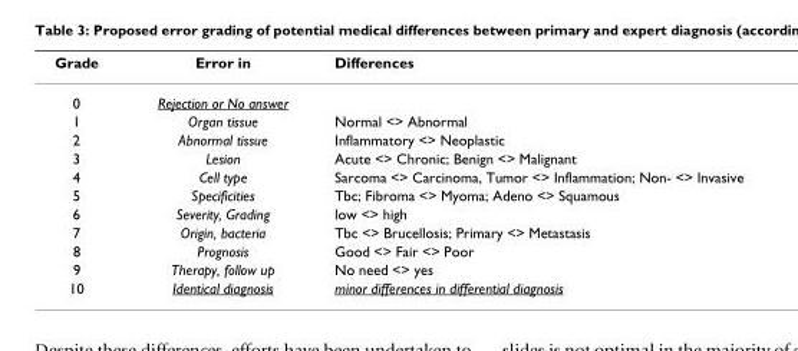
<table><thead><tr><td>Grade</td><td>Error in</td><td>Differences</td></tr></thead><tbody><tr><td>0</td><td>Rejection or No answer</td><td></td></tr><tr><td>1</td><td>Organ tissue</td><td>Normal &lt;&gt; Abnormal</td></tr><tr><td>2</td><td>Abnormal tissue</td><td>Inflammatory &lt;&gt; Neoplastic</td></tr><tr><td>3</td><td>Lesion</td><td>Acute &lt;&gt; Chronic; Benign &lt;&gt; Malignant</td></tr><tr><td>4</td><td>Cell type</td><td>Sarcoma &lt;&gt; Carcinoma, Tumor &lt;&gt; Inflammation; Non- &lt;&gt; Invasive</td></tr><tr><td>5</td><td>Specificities</td><td>Tbc; Fibroma &lt;&gt; Myoma; Adeno &lt;&gt; Squamous</td></tr><tr><td>6</td><td>Severity, Grading</td><td>low &lt;&gt; high</td></tr><tr><td>7</td><td>Origin, bacteria</td><td>Tbc &lt;&gt; Brucellosis; Primary &lt;&gt; Metastasis</td></tr><tr><td>8</td><td>Prognosis</td><td>Good &lt;&gt; Fair &lt;&gt; Poor</td></tr><tr><td>9</td><td>Therapy, follow up</td><td>No need &lt;&gt; yes</td></tr><tr><td>10</td><td>Identical diagnosis</td><td>minor differences in differential diagnosis</td></tr></tbody></table>